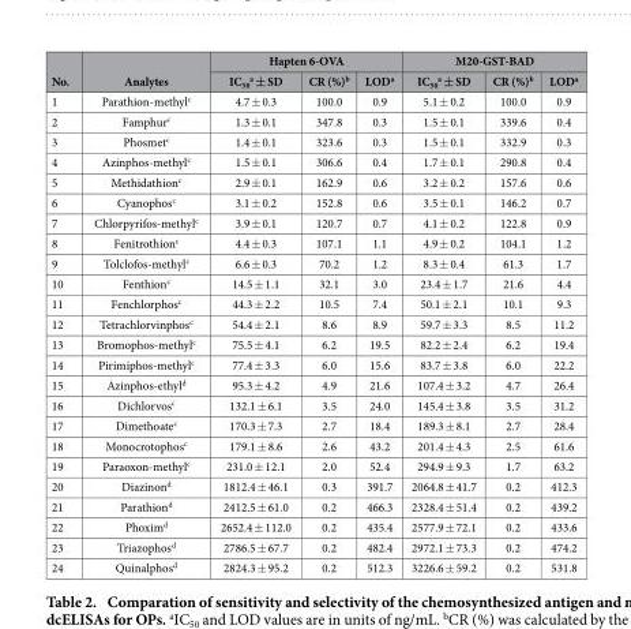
<table><thead><tr><td rowspan="2">No.</td><td rowspan="2">Analytes</td><td colspan="3">Hapten 6-OVA</td><td colspan="3">M20-GST-BAD</td></tr><tr><td>IC<sub>50</sub> <sup>a</sup> ± SD</td><td>CR (%)<sup>b</sup></td><td>LOD<sup>a</sup></td><td>IC<sub>50</sub> <sup>a</sup> ± SD</td><td>CR (%)<sup>b</sup></td><td>LOD<sup>a</sup></td></tr></thead><tbody><tr><td>1</td><td>Parathion-methyl<sup>c</sup></td><td>4.7 ± 0.3</td><td>100.0</td><td>0.9</td><td>5.1 ± 0.2</td><td>100.0</td><td>0.9</td></tr><tr><td>2</td><td>Famphur<sup>c</sup></td><td>1.3 ± 0.1</td><td>347.8</td><td>0.3</td><td>1.5 ± 0.1</td><td>339.6</td><td>0.4</td></tr><tr><td>3</td><td>Phosmet<sup>c</sup></td><td>1.4 ± 0.1</td><td>323.6</td><td>0.3</td><td>1.5 ± 0.1</td><td>332.9</td><td>0.3</td></tr><tr><td>4</td><td>Azinphos-methyl<sup>c</sup></td><td>1.5 ± 0.1</td><td>306.6</td><td>0.4</td><td>1.7 ± 0.1</td><td>290.8</td><td>0.4</td></tr><tr><td>5</td><td>Methidathion<sup>c</sup></td><td>2.9 ± 0.1</td><td>162.9</td><td>0.6</td><td>3.2 ± 0.2</td><td>157.6</td><td>0.6</td></tr><tr><td>6</td><td>Cyanophos<sup>c</sup></td><td>3.1 ± 0.2</td><td>152.8</td><td>0.6</td><td>3.5 ± 0.1</td><td>146.2</td><td>0.7</td></tr><tr><td>7</td><td>Chlorpyrifos-methyl<sup>c</sup></td><td>3.9 ± 0.1</td><td>120.7</td><td>0.7</td><td>4.1 ± 0.2</td><td>122.8</td><td>0.9</td></tr><tr><td>8</td><td>Fenitrothion<sup>c</sup></td><td>4.4 ± 0.3</td><td>107.1</td><td>1.1</td><td>4.9 ± 0.2</td><td>104.1</td><td>1.2</td></tr><tr><td>9</td><td>Tolclofos-methyl<sup>c</sup></td><td>6.6 ± 0.3</td><td>70.2</td><td>1.2</td><td>8.3 ± 0.4</td><td>61.3</td><td>1.7</td></tr><tr><td>10</td><td>Fenthion<sup>c</sup></td><td>14.5 ± 1.1</td><td>32.1</td><td>3.0</td><td>23.4 ± 1.7</td><td>21.6</td><td>4.4</td></tr><tr><td>11</td><td>Fenchlorphos<sup>c</sup></td><td>44.3 ± 2.2</td><td>10.5</td><td>7.4</td><td>50.1 ± 2.1</td><td>10.1</td><td>9.3</td></tr><tr><td>12</td><td>Tetrachlorvinphos<sup>c</sup></td><td>54.4 ± 2.1</td><td>8.6</td><td>8.9</td><td>59.7 ± 3.3</td><td>8.5</td><td>11.2</td></tr><tr><td>13</td><td>Bromophos-methyl<sup>c</sup></td><td>75.5 ± 4.1</td><td>6.2</td><td>19.5</td><td>82.2 ± 2.4</td><td>6.2</td><td>19.4</td></tr><tr><td>14</td><td>Pirimiphos-methyl<sup>c</sup></td><td>77.4 ± 3.3</td><td>6.0</td><td>15.6</td><td>83.7 ± 3.8</td><td>6.0</td><td>22.2</td></tr><tr><td>15</td><td>Azinphos-ethyl<sup>d</sup></td><td>95.3 ± 4.2</td><td>4.9</td><td>21.6</td><td>107.4 ± 3.2</td><td>4.7</td><td>26.4</td></tr><tr><td>16</td><td>Dichlorvos<sup>c</sup></td><td>132.1 ± 6.1</td><td>3.5</td><td>24.0</td><td>145.4 ± 3.8</td><td>3.5</td><td>31.2</td></tr><tr><td>17</td><td>Dimethoate<sup>c</sup></td><td>170.3 ± 7.3</td><td>2.7</td><td>18.4</td><td>189.3 ± 8.1</td><td>2.7</td><td>28.4</td></tr><tr><td>18</td><td>Monocrotophos<sup>c</sup></td><td>179.1 ± 8.6</td><td>2.6</td><td>43.2</td><td>201.4 ± 4.3</td><td>2.5</td><td>61.6</td></tr><tr><td>19</td><td>Paraoxon-methyl<sup>c</sup></td><td>231.0 ± 12.1</td><td>2.0</td><td>52.4</td><td>294.9 ± 9.3</td><td>1.7</td><td>63.2</td></tr><tr><td>20</td><td>Diazinon<sup>d</sup></td><td>1812.4 ± 46.1</td><td>0.3</td><td>391.7</td><td>2064.8 ± 41.7</td><td>0.2</td><td>412.3</td></tr><tr><td>21</td><td>Parathion<sup>d</sup></td><td>2412.5 ± 61.0</td><td>0.2</td><td>466.3</td><td>2328.4 ± 51.4</td><td>0.2</td><td>439.2</td></tr><tr><td>22</td><td>Phoxim<sup>d</sup></td><td>2652.4 ± 112.0</td><td>0.2</td><td>435.4</td><td>2577.9 ± 72.1</td><td>0.2</td><td>433.6</td></tr><tr><td>23</td><td>Triazophos<sup>d</sup></td><td>2786.5 ± 67.7</td><td>0.2</td><td>482.4</td><td>2972.1 ± 73.3</td><td>0.2</td><td>474.2</td></tr><tr><td>24</td><td>Quinalphos<sup>d</sup></td><td>2824.3 ± 95.2</td><td>0.2</td><td>512.3</td><td>3226.6 ± 59.2</td><td>0.2</td><td>531.8</td></tr></tbody></table>